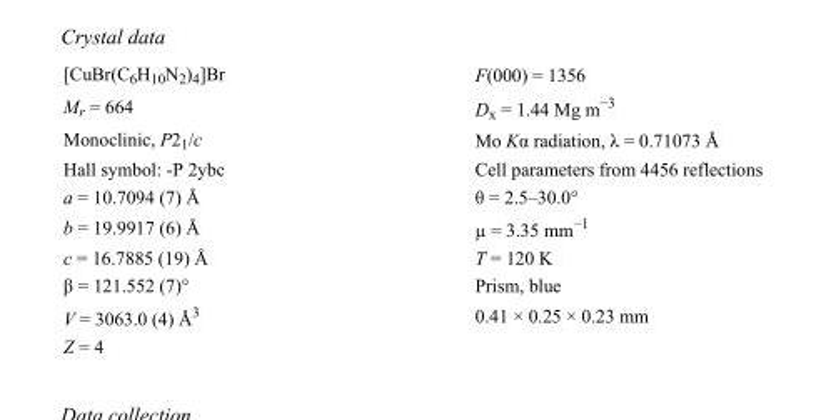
<table><tbody><tr><td>[CuBr(C<sub>6</sub>H<sub>10</sub>N<sub>2</sub>)<sub>4</sub>]Br</td><td>F(000) = 1356</td></tr><tr><td>M<sub>r</sub> = 664</td><td>D<sub>x</sub> = 1.44 Mg m<sup>−3</sup></td></tr><tr><td>Monoclinic, P2<sub>1</sub>/c</td><td>Mo Kα radiation, λ = 0.71073 Å</td></tr><tr><td>Hall symbol: -P 2ybc</td><td>Cell parameters from 4456 reflections</td></tr><tr><td>a = 10.7094 (7) Å</td><td>θ = 2.5–30.0°</td></tr><tr><td>b = 19.9917 (6) Å</td><td>µ = 3.35 mm<sup>−1</sup></td></tr><tr><td>c = 16.7885 (19) Å</td><td>T = 120 K</td></tr><tr><td>β = 121.552 (7)°</td><td>Prism, blue</td></tr><tr><td>V = 3063.0 (4) Å<sup>3</sup></td><td>0.41 × 0.25 × 0.23 mm</td></tr><tr><td>Z = 4</td><td></td></tr></tbody></table>